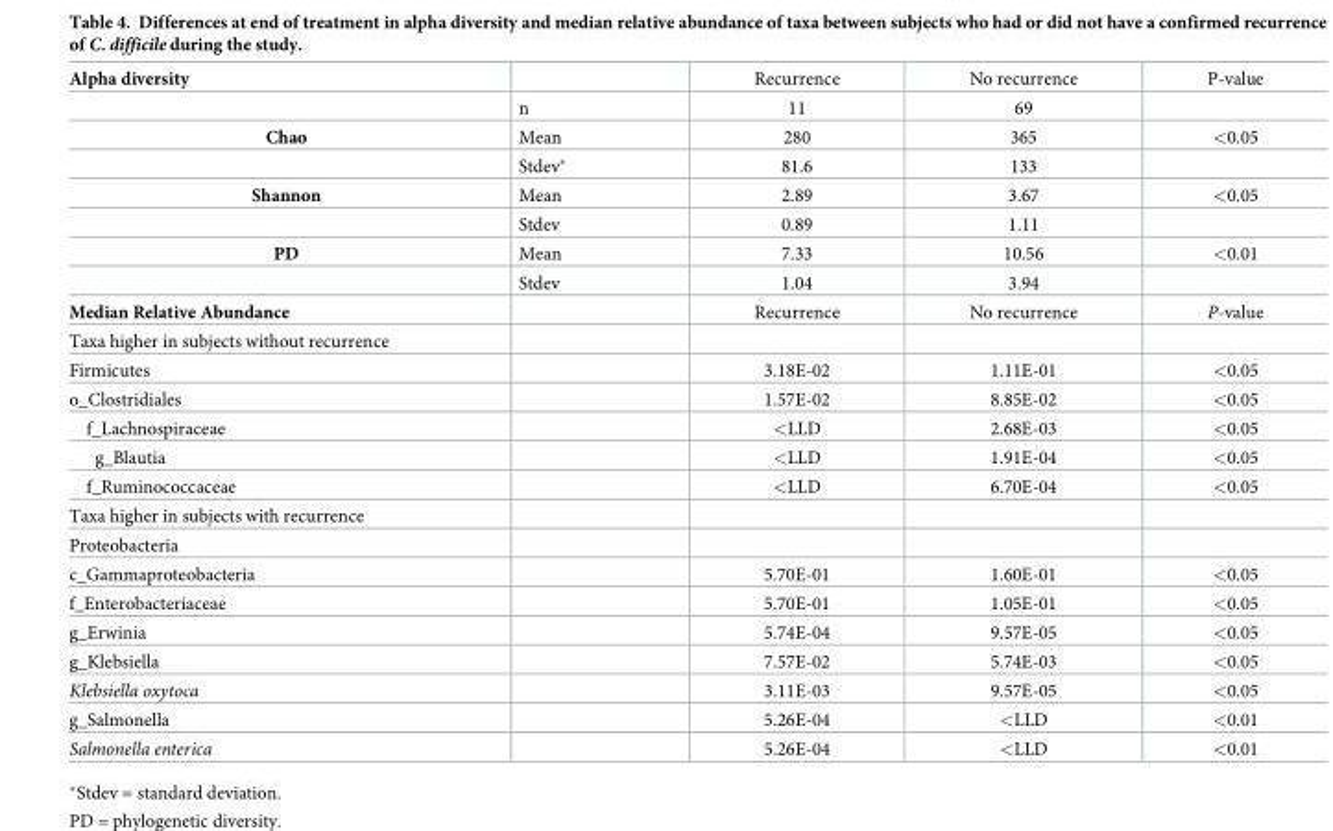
<table><tbody><tr><td rowspan="2">Alpha diversity</td><td></td><td>Recurrence</td><td>No recurrence</td><td>P-value</td></tr><tr><td>n</td><td>11</td><td>69</td><td></td></tr><tr><td rowspan="2">Chao</td><td>Mean</td><td>280</td><td>365</td><td>&lt;0.05</td></tr><tr><td>Stdev*</td><td>81.6</td><td>133</td><td></td></tr><tr><td rowspan="2">Shannon</td><td>Mean</td><td>2.89</td><td>3.67</td><td>&lt;0.05</td></tr><tr><td>Stdev</td><td>0.89</td><td>1.11</td><td></td></tr><tr><td rowspan="2">PD</td><td>Mean</td><td>7.33</td><td>10.56</td><td>&lt;0.01</td></tr><tr><td>Stdev</td><td>1.04</td><td>3.94</td><td></td></tr><tr><td>Median Relative Abundance</td><td></td><td>Recurrence</td><td>No recurrence</td><td>P-value</td></tr><tr><td colspan="5">Taxa higher in subjects without recurrence</td></tr><tr><td>Firmicutes</td><td></td><td>3.18E-02</td><td>1.11E-01</td><td>&lt;0.05</td></tr><tr><td>o_Clostridiales</td><td></td><td>1.57E-02</td><td>8.85E-02</td><td>&lt;0.05</td></tr><tr><td>f_Lachnospiraceae</td><td></td><td>&lt;LLD</td><td>2.68E-03</td><td>&lt;0.05</td></tr><tr><td>g_Blautia</td><td></td><td>&lt;LLD</td><td>1.91E-04</td><td>&lt;0.05</td></tr><tr><td>f_Ruminococcaceae</td><td></td><td>&lt;LLD</td><td>6.70E-04</td><td>&lt;0.05</td></tr><tr><td colspan="5">Taxa higher in subjects with recurrence</td></tr><tr><td colspan="5">Proteobacteria</td></tr><tr><td>c_Gammaproteobacteria</td><td></td><td>5.70E-01</td><td>1.60E-01</td><td>&lt;0.05</td></tr><tr><td>f_Enterobacteriaceae</td><td></td><td>5.70E-01</td><td>1.05E-01</td><td>&lt;0.05</td></tr><tr><td>g_Erwinia</td><td></td><td>5.74E-04</td><td>9.57E-05</td><td>&lt;0.05</td></tr><tr><td>g_Klebsiella</td><td></td><td>7.57E-02</td><td>5.74E-03</td><td>&lt;0.05</td></tr><tr><td>Klebsiella oxytoca</td><td></td><td>3.11E-03</td><td>9.57E-05</td><td>&lt;0.05</td></tr><tr><td>g_Salmonella</td><td></td><td>5.26E-04</td><td>&lt;LLD</td><td>&lt;0.01</td></tr><tr><td>Salmonella enterica</td><td></td><td>5.26E-04</td><td>&lt;LLD</td><td>&lt;0.01</td></tr></tbody></table>